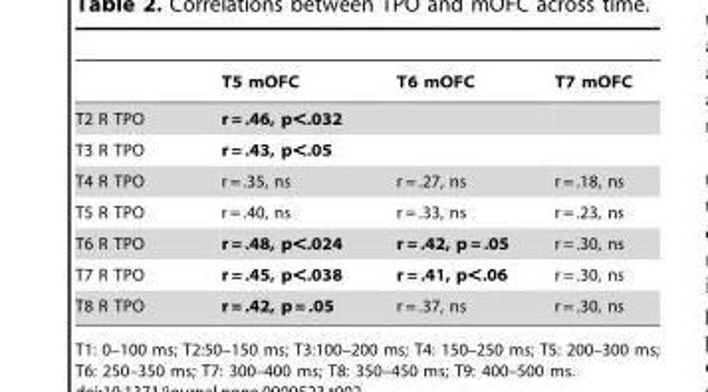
<table><thead><tr><td></td><td>T5 mOFC</td><td>T6 mOFC</td><td>T7 mOFC</td></tr></thead><tbody><tr><td>T2 R TPO</td><td>r = .46, p&lt;.032</td><td></td><td></td></tr><tr><td>T3 R TPO</td><td>r = .43, p&lt;.05</td><td></td><td></td></tr><tr><td>T4 R TPO</td><td>r = .35, ns</td><td>r = .27, ns</td><td>r = .18, ns</td></tr><tr><td>T5 R TPO</td><td>r = .40, ns</td><td>r = .33, ns</td><td>r = .23, ns</td></tr><tr><td>T6 R TPO</td><td>r = .48, p&lt;.024</td><td>r = .42, p = .05</td><td>r = .30, ns</td></tr><tr><td>T7 R TPO</td><td>r = .45, p&lt;.038</td><td>r = .41, p&lt;.06</td><td>r = .30, ns</td></tr><tr><td>T8 R TPO</td><td>r = .42, p = .05</td><td>r = .37, ns</td><td>r = .30, ns</td></tr></tbody></table>